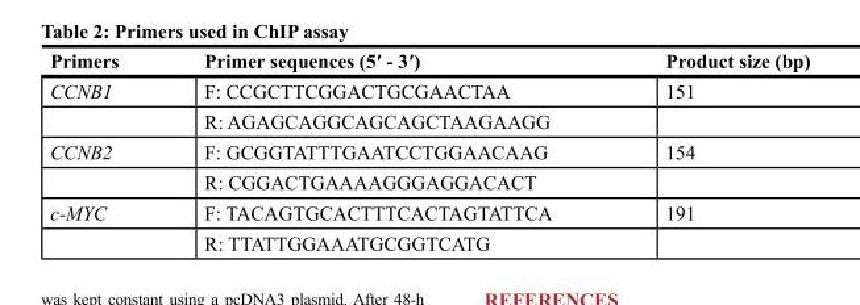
<table><thead><tr><td>Primers</td><td>Primer sequences (5′ - 3′)</td><td>Product size (bp)</td></tr></thead><tbody><tr><td rowspan="2">CCNB1</td><td>F: CCGCTTCGGACTGCGAACTAA</td><td>151</td></tr><tr><td>R: AGAGCAGGCAGCAGCTAAGAAGG</td><td></td></tr><tr><td rowspan="2">CCNB2</td><td>F: GCGGTATTTGAATCCTGGAACAAG</td><td>154</td></tr><tr><td>R: CGGACTGAAAAGGGAGGACACT</td><td></td></tr><tr><td rowspan="2">c-MYC</td><td>F: TACAGTGCACTTTCACTAGTATTCA</td><td>191</td></tr><tr><td>R: TTATTGGAAATGCGGTCATG</td><td></td></tr></tbody></table>